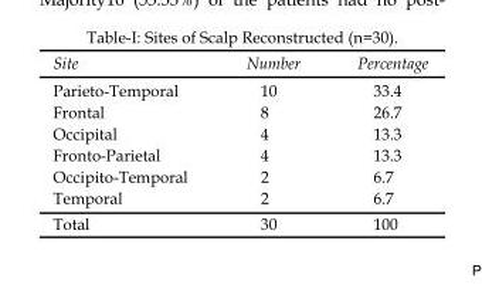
<table><thead><tr><td>Site</td><td>Number</td><td>Percentage</td></tr></thead><tbody><tr><td>Parieto-Temporal</td><td>10</td><td>33.4</td></tr><tr><td>Frontal</td><td>8</td><td>26.7</td></tr><tr><td>Occipital</td><td>4</td><td>13.3</td></tr><tr><td>Fronto-Parietal</td><td>4</td><td>13.3</td></tr><tr><td>Occipito-Temporal</td><td>2</td><td>6.7</td></tr><tr><td>Temporal</td><td>2</td><td>6.7</td></tr><tr><td>Total</td><td>30</td><td>100</td></tr></tbody></table>